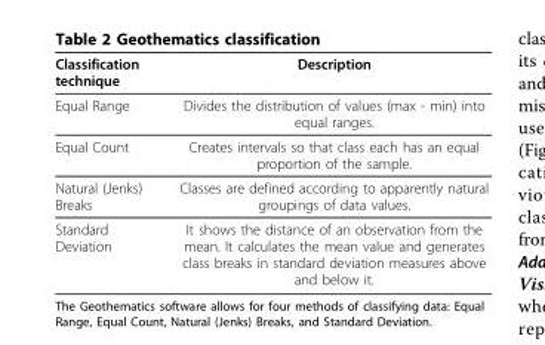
<table><thead><tr><td>Classification technique</td><td>Description</td></tr></thead><tbody><tr><td>Equal Range</td><td>Divides the distribution of values (max - min) into equal ranges.</td></tr><tr><td>Equal Count</td><td>Creates intervals so that class each has an equal proportion of the sample.</td></tr><tr><td>Natural (Jenks) Breaks</td><td>Classes are defined according to apparently natural groupings of data values.</td></tr><tr><td>Standard Deviation</td><td>It shows the distance of an observation from the mean. It calculates the mean value and generates class breaks in standard deviation measures above and below it.</td></tr></tbody></table>